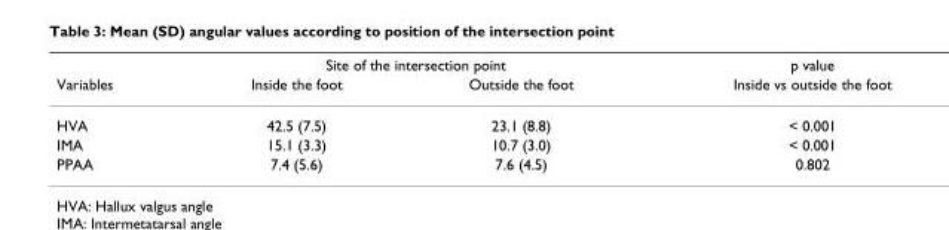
<table><thead><tr><td rowspan="2">Variables</td><td colspan="2">Site of the intersection point</td><td rowspan="2">p value Inside vs outside the foot</td></tr><tr><td>Inside the foot</td><td>Outside the foot</td></tr></thead><tbody><tr><td>HVA</td><td>42.5 (7.5)</td><td>23.1 (8.8)</td><td>&lt; 0.001</td></tr><tr><td>IMA</td><td>15.1 (3.3)</td><td>10.7 (3.0)</td><td>&lt; 0.001</td></tr><tr><td>PPAA</td><td>7.4 (5.6)</td><td>7.6 (4.5)</td><td>0.802</td></tr></tbody></table>